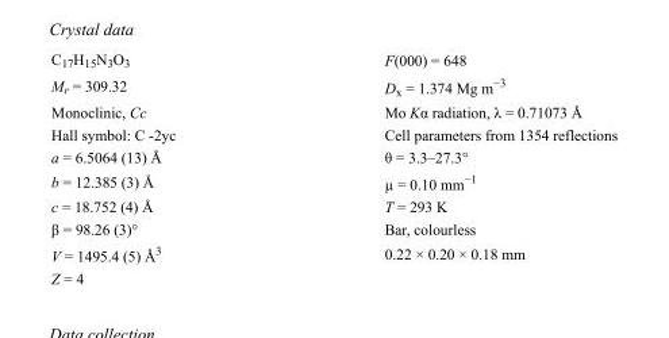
<table><tbody><tr><td>C<sub>17</sub>H<sub>15</sub>N<sub>3</sub>O<sub>3</sub></td><td>F(000) = 648</td></tr><tr><td>M<sub>r</sub> = 309.32</td><td>D<sub>x</sub> = 1.374 Mg m<sup>−3</sup></td></tr><tr><td>Monoclinic, Cc</td><td>Mo Kα radiation, λ = 0.71073 Å</td></tr><tr><td>Hall symbol: C -2yc</td><td>Cell parameters from 1354 reflections</td></tr><tr><td>a = 6.5064 (13) Å</td><td>θ = 3.3–27.3°</td></tr><tr><td>b = 12.385 (3) Å</td><td>µ = 0.10 mm<sup>−1</sup></td></tr><tr><td>c = 18.752 (4) Å</td><td>T = 293 K</td></tr><tr><td>β = 98.26 (3)°</td><td>Bar, colourless</td></tr><tr><td>V = 1495.4 (5) Å<sup>3</sup></td><td>0.22 × 0.20 × 0.18 mm</td></tr><tr><td>Z = 4</td><td></td></tr></tbody></table>